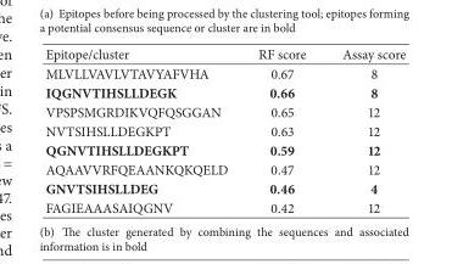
<table><thead><tr><td>Epitope/cluster</td><td>RF score</td><td>Assay score</td></tr></thead><tbody><tr><td>MLVLLVAVLVTAVYAFVHA</td><td>0.67</td><td>8</td></tr><tr><td>IQGNVTIHSLLDEGK</td><td>0.66</td><td>8</td></tr><tr><td>VPSPSMGRDIKVQFQSGGAN</td><td>0.65</td><td>12</td></tr><tr><td>NVTSIHSLLDEGKPT</td><td>0.63</td><td>12</td></tr><tr><td>QGNVTIHSLLDEGKPT</td><td>0.59</td><td>12</td></tr><tr><td>AQAAVVRFQEAANKQKQELD</td><td>0.47</td><td>12</td></tr><tr><td>GNVTSIHSLLDEG</td><td>0.46</td><td>4</td></tr><tr><td>FAGIEAAASAIQGNV</td><td>0.42</td><td>12</td></tr></tbody></table>